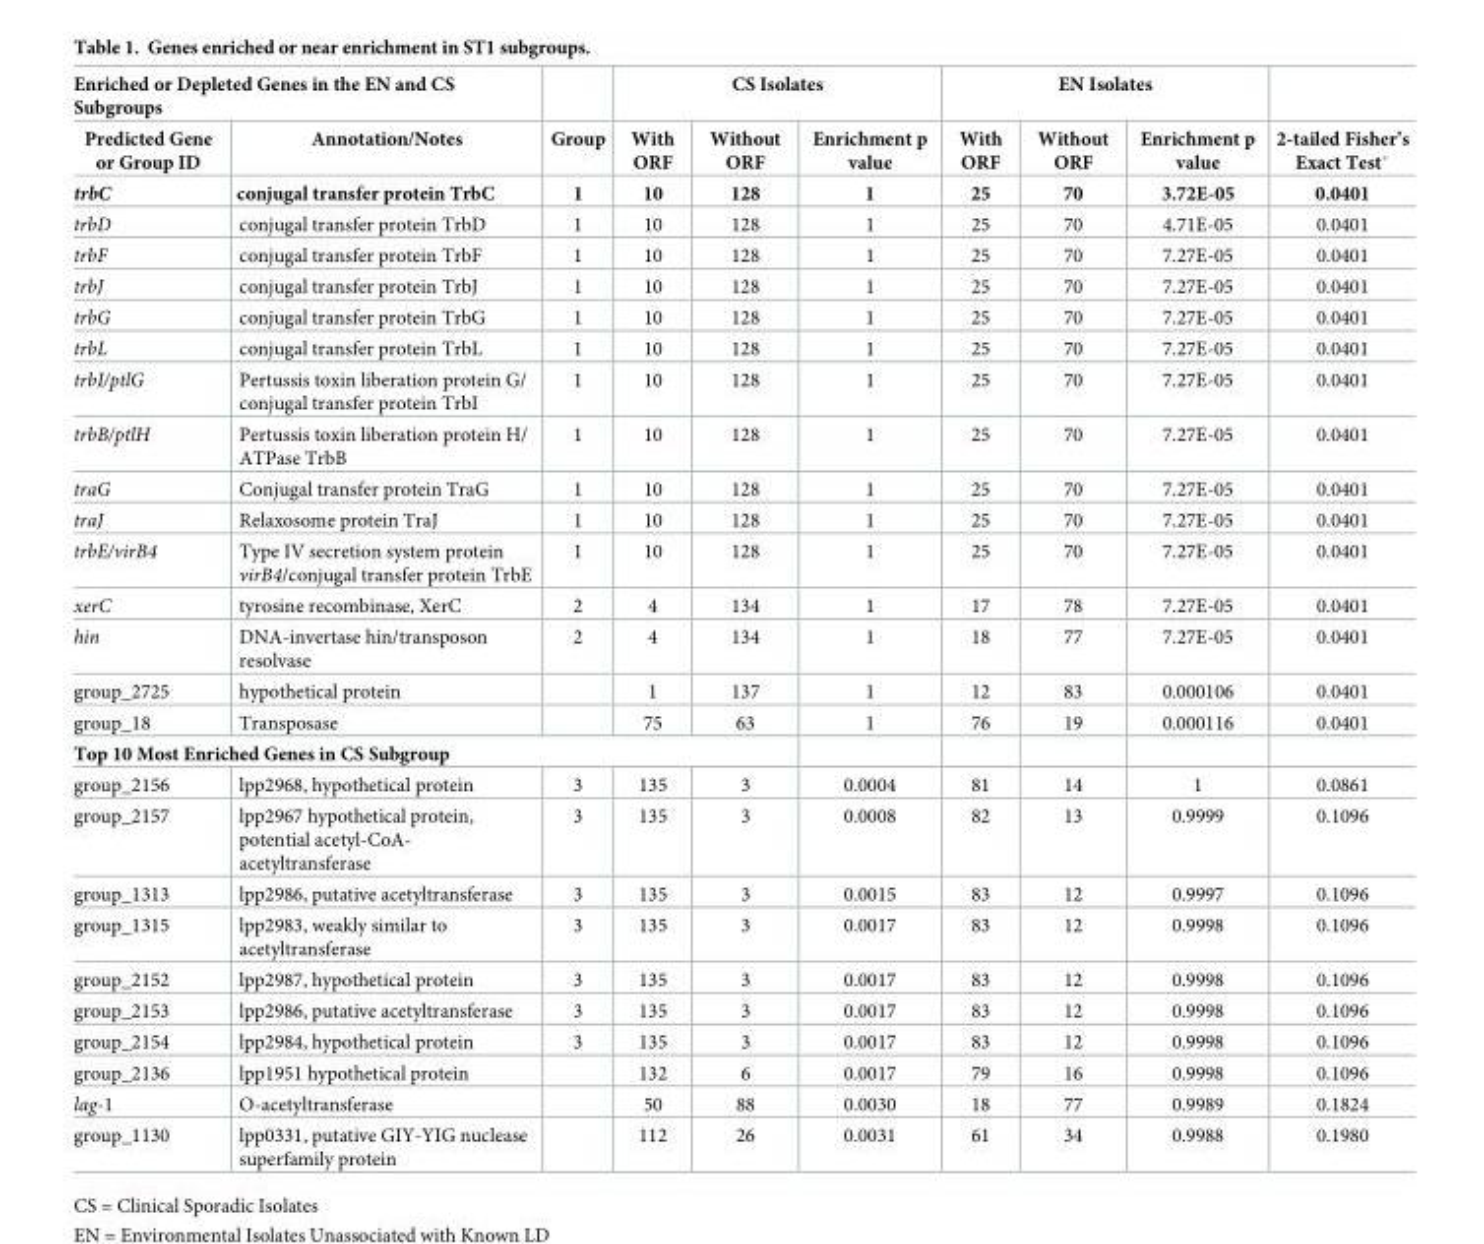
<table><thead><tr><td colspan="2">Enriched or Depleted Genes in the EN and CS Subgroups</td><td rowspan="3">Group 1</td><td colspan="3">CS Isolates</td><td colspan="3">EN Isolates</td><td rowspan="3">2-tailed Fisher’s Exact Test* 0.0401</td></tr><tr><td rowspan="2">Predicted Gene or Group ID trbC</td><td rowspan="2">Annotation/Notes conjugal transfer protein TrbC</td><td rowspan="2">With ORF 10</td><td rowspan="2">Without ORF 128</td><td rowspan="2">Enrichment p value 1</td><td rowspan="2">With ORF 25</td><td rowspan="2">Without ORF 70</td><td rowspan="2">Enrichment p value 3.72E-05</td></tr><tr></tr></thead><tbody><tr><td>trbD</td><td>conjugal transfer protein TrbD</td><td>1</td><td>10</td><td>128</td><td>1</td><td>25</td><td>70</td><td>4.71E-05</td><td>0.0401</td></tr><tr><td>trbF</td><td>conjugal transfer protein TrbF</td><td>1</td><td>10</td><td>128</td><td>1</td><td>25</td><td>70</td><td>7.27E-05</td><td>0.0401</td></tr><tr><td>trbJ</td><td>conjugal transfer protein TrbJ</td><td>1</td><td>10</td><td>128</td><td>1</td><td>25</td><td>70</td><td>7.27E-05</td><td>0.0401</td></tr><tr><td>trbG</td><td>conjugal transfer protein TrbG</td><td>1</td><td>10</td><td>128</td><td>1</td><td>25</td><td>70</td><td>7.27E-05</td><td>0.0401</td></tr><tr><td>trbL</td><td>conjugal transfer protein TrbL</td><td>1</td><td>10</td><td>128</td><td>1</td><td>25</td><td>70</td><td>7.27E-05</td><td>0.0401</td></tr><tr><td>trbI/ptlG</td><td>Pertussis toxin liberation protein G/ conjugal transfer protein TrbI</td><td>1</td><td>10</td><td>128</td><td>1</td><td>25</td><td>70</td><td>7.27E-05</td><td>0.0401</td></tr><tr><td>trbB/ptlH</td><td>Pertussis toxin liberation protein H/ ATPase TrbB</td><td>1</td><td>10</td><td>128</td><td>1</td><td>25</td><td>70</td><td>7.27E-05</td><td>0.0401</td></tr><tr><td>traG</td><td>Conjugal transfer protein TraG</td><td>1</td><td>10</td><td>128</td><td>1</td><td>25</td><td>70</td><td>7.27E-05</td><td>0.0401</td></tr><tr><td>traJ</td><td>Relaxosome protein TraJ</td><td>1</td><td>10</td><td>128</td><td>1</td><td>25</td><td>70</td><td>7.27E-05</td><td>0.0401</td></tr><tr><td>trbE/virB4</td><td>Type IV secretion system protein virB4/conjugal transfer protein TrbE</td><td>1</td><td>10</td><td>128</td><td>1</td><td>25</td><td>70</td><td>7.27E-05</td><td>0.0401</td></tr><tr><td>xerC</td><td>tyrosine recombinase, XerC</td><td>2</td><td>4</td><td>134</td><td>1</td><td>17</td><td>78</td><td>7.27E-05</td><td>0.0401</td></tr><tr><td>hin</td><td>DNA-invertase hin/transposon resolvase</td><td>2</td><td>4</td><td>134</td><td>1</td><td>18</td><td>77</td><td>7.27E-05</td><td>0.0401</td></tr><tr><td>group_2725</td><td>hypothetical protein</td><td></td><td>1</td><td>137</td><td>1</td><td>12</td><td>83</td><td>0.000106</td><td>0.0401</td></tr><tr><td>group_18</td><td>Transposase</td><td></td><td>75</td><td>63</td><td>1</td><td>76</td><td>19</td><td>0.000116</td><td>0.0401</td></tr><tr><td colspan="10">Top 10 Most Enriched Genes in CS Subgroup</td></tr><tr><td>group_2156</td><td>lpp2968, hypothetical protein</td><td>3</td><td>135</td><td>3</td><td>0.0004</td><td>81</td><td>14</td><td>1</td><td>0.0861</td></tr><tr><td>group_2157</td><td>lpp2967 hypothetical protein, potential acetyl-CoA- acetyltransferase</td><td>3</td><td>135</td><td>3</td><td>0.0008</td><td>82</td><td>13</td><td>0.9999</td><td>0.1096</td></tr><tr><td>group_1313</td><td>lpp2986, putative acetyltransferase</td><td>3</td><td>135</td><td>3</td><td>0.0015</td><td>83</td><td>12</td><td>0.9997</td><td>0.1096</td></tr><tr><td>group_1315</td><td>lpp2983, weakly similar to acetyltransferase</td><td>3</td><td>135</td><td>3</td><td>0.0017</td><td>83</td><td>12</td><td>0.9998</td><td>0.1096</td></tr><tr><td>group_2152</td><td>lpp2987, hypothetical protein</td><td>3</td><td>135</td><td>3</td><td>0.0017</td><td>83</td><td>12</td><td>0.9998</td><td>0.1096</td></tr><tr><td>group_2153</td><td>lpp2986, putative acetyltransferase</td><td>3</td><td>135</td><td>3</td><td>0.0017</td><td>83</td><td>12</td><td>0.9998</td><td>0.1096</td></tr><tr><td>group_2154</td><td>lpp2984, hypothetical protein</td><td>3</td><td>135</td><td>3</td><td>0.0017</td><td>83</td><td>12</td><td>0.9998</td><td>0.1096</td></tr><tr><td>group_2136</td><td>lpp1951 hypothetical protein</td><td></td><td>132</td><td>6</td><td>0.0017</td><td>79</td><td>16</td><td>0.9998</td><td>0.1096</td></tr><tr><td>lag-1</td><td>O-acetyltransferase</td><td></td><td>50</td><td>88</td><td>0.0030</td><td>18</td><td>77</td><td>0.9989</td><td>0.1824</td></tr><tr><td>group_1130</td><td>lpp0331, putative GIY-YIG nuclease superfamily protein</td><td></td><td>112</td><td>26</td><td>0.0031</td><td>61</td><td>34</td><td>0.9988</td><td>0.1980</td></tr></tbody></table>